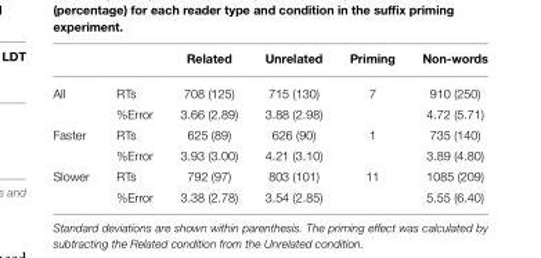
<table><thead><tr><td></td><td></td><td>Related</td><td>Unrelated</td><td>Priming</td><td>Non-words</td></tr></thead><tbody><tr><td rowspan="2">All</td><td>RTs</td><td>708 (125)</td><td>715 (130)</td><td>7</td><td>910 (250)</td></tr><tr><td>%Error</td><td>3.66 (2.89)</td><td>3.88 (2.98)</td><td></td><td>4.72 (5.71)</td></tr><tr><td rowspan="2">Faster</td><td>RTs</td><td>625 (89)</td><td>626 (90)</td><td>1</td><td>735 (140)</td></tr><tr><td>%Error</td><td>3.93 (3.00)</td><td>4.21 (3.10)</td><td></td><td>3.89 (4.80)</td></tr><tr><td rowspan="2">Slower</td><td>RTs</td><td>792 (97)</td><td>803 (101)</td><td>11</td><td>1085 (209)</td></tr><tr><td>%Error</td><td>3.38 (2.78)</td><td>3.54 (2.85)</td><td></td><td>5.55 (6.40)</td></tr></tbody></table>